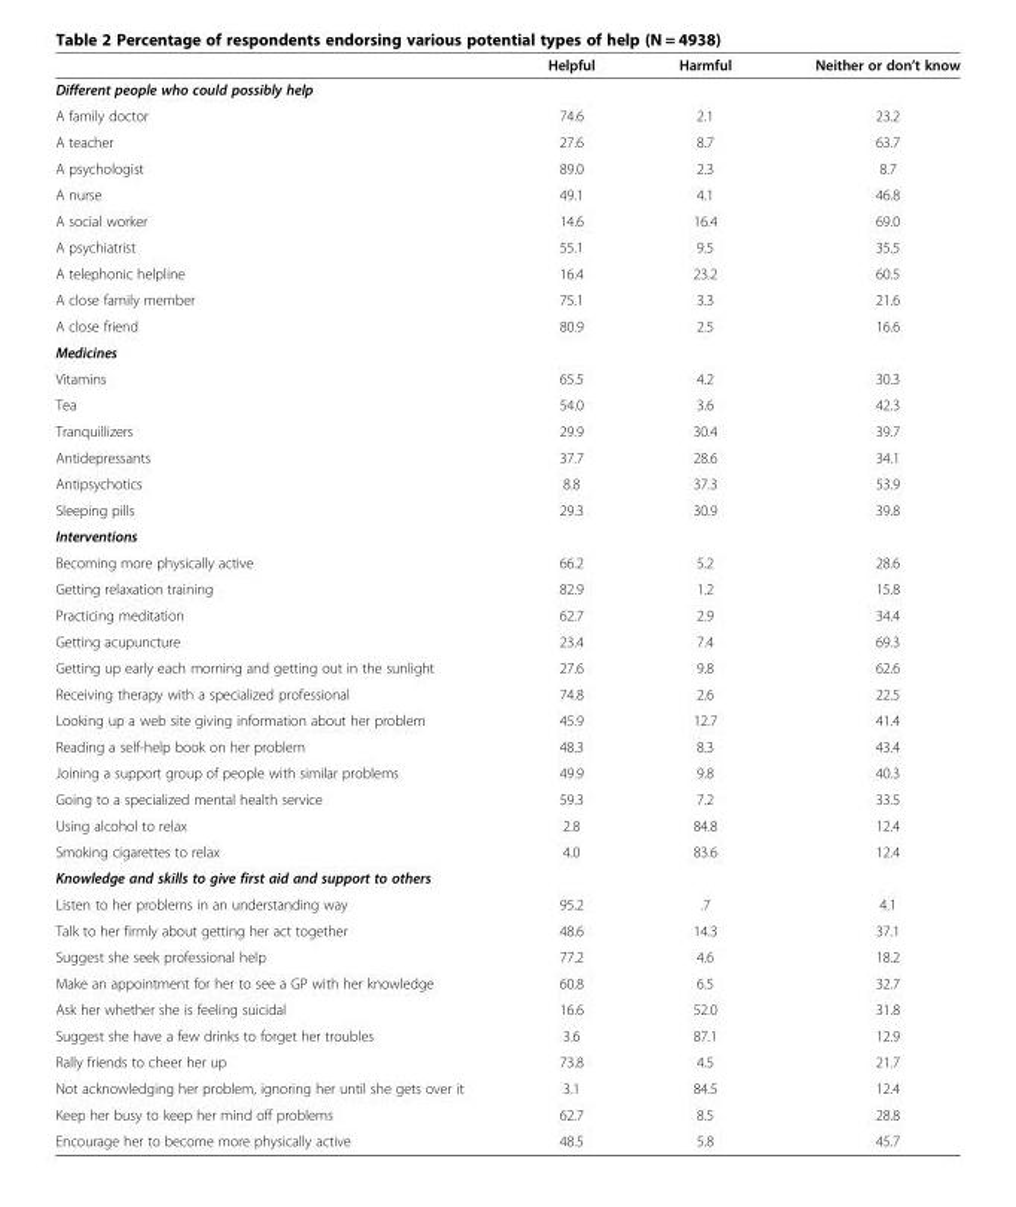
<table><thead><tr><td></td><td>Helpful</td><td>Harmful</td><td>Neither or don’t know</td></tr></thead><tbody><tr><td colspan="4">Different people who could possibly help</td></tr><tr><td>A family doctor</td><td>74.6</td><td>2.1</td><td>23.2</td></tr><tr><td>A teacher</td><td>27.6</td><td>8.7</td><td>63.7</td></tr><tr><td>A psychologist</td><td>89.0</td><td>2.3</td><td>8.7</td></tr><tr><td>A nurse</td><td>49.1</td><td>4.1</td><td>46.8</td></tr><tr><td>A social worker</td><td>14.6</td><td>16.4</td><td>69.0</td></tr><tr><td>A psychiatrist</td><td>55.1</td><td>9.5</td><td>35.5</td></tr><tr><td>A telephonic helpline</td><td>16.4</td><td>23.2</td><td>60.5</td></tr><tr><td>A close family member</td><td>75.1</td><td>3.3</td><td>21.6</td></tr><tr><td>A close friend</td><td>80.9</td><td>2.5</td><td>16.6</td></tr><tr><td colspan="4">Medicines</td></tr><tr><td>Vitamins</td><td>65.5</td><td>4.2</td><td>30.3</td></tr><tr><td>Tea</td><td>54.0</td><td>3.6</td><td>42.3</td></tr><tr><td>Tranquillizers</td><td>29.9</td><td>30.4</td><td>39.7</td></tr><tr><td>Antidepressants</td><td>37.7</td><td>28.6</td><td>34.1</td></tr><tr><td>Antipsychotics</td><td>8.8</td><td>37.3</td><td>53.9</td></tr><tr><td>Sleeping pills</td><td>29.3</td><td>30.9</td><td>39.8</td></tr><tr><td colspan="4">Interventions</td></tr><tr><td>Becoming more physically active</td><td>66.2</td><td>5.2</td><td>28.6</td></tr><tr><td>Getting relaxation training</td><td>82.9</td><td>1.2</td><td>15.8</td></tr><tr><td>Practicing meditation</td><td>62.7</td><td>2.9</td><td>34.4</td></tr><tr><td>Getting acupuncture</td><td>23.4</td><td>7.4</td><td>69.3</td></tr><tr><td>Getting up early each morning and getting out in the sunlight</td><td>27.6</td><td>9.8</td><td>62.6</td></tr><tr><td>Receiving therapy with a specialized professional</td><td>74.8</td><td>2.6</td><td>22.5</td></tr><tr><td>Looking up a web site giving information about her problem</td><td>45.9</td><td>12.7</td><td>41.4</td></tr><tr><td>Reading a self-help book on her problem</td><td>48.3</td><td>8.3</td><td>43.4</td></tr><tr><td>Joining a support group of people with similar problems</td><td>49.9</td><td>9.8</td><td>40.3</td></tr><tr><td>Going to a specialized mental health service</td><td>59.3</td><td>7.2</td><td>33.5</td></tr><tr><td>Using alcohol to relax</td><td>2.8</td><td>84.8</td><td>12.4</td></tr><tr><td>Smoking cigarettes to relax</td><td>4.0</td><td>83.6</td><td>12.4</td></tr><tr><td colspan="4">Knowledge and skills to give first aid and support to others</td></tr><tr><td>Listen to her problems in an understanding way</td><td>95.2</td><td>.7</td><td>4.1</td></tr><tr><td>Talk to her firmly about getting her act together</td><td>48.6</td><td>14.3</td><td>37.1</td></tr><tr><td>Suggest she seek professional help</td><td>77.2</td><td>4.6</td><td>18.2</td></tr><tr><td>Make an appointment for her to see a GP with her knowledge</td><td>60.8</td><td>6.5</td><td>32.7</td></tr><tr><td>Ask her whether she is feeling suicidal</td><td>16.6</td><td>52.0</td><td>31.8</td></tr><tr><td>Suggest she have a few drinks to forget her troubles</td><td>3.6</td><td>87.1</td><td>12.9</td></tr><tr><td>Rally friends to cheer her up</td><td>73.8</td><td>4.5</td><td>21.7</td></tr><tr><td>Not acknowledging her problem, ignoring her until she gets over it</td><td>3.1</td><td>84.5</td><td>12.4</td></tr><tr><td>Keep her busy to keep her mind off problems</td><td>62.7</td><td>8.5</td><td>28.8</td></tr><tr><td>Encourage her to become more physically active</td><td>48.5</td><td>5.8</td><td>45.7</td></tr></tbody></table>